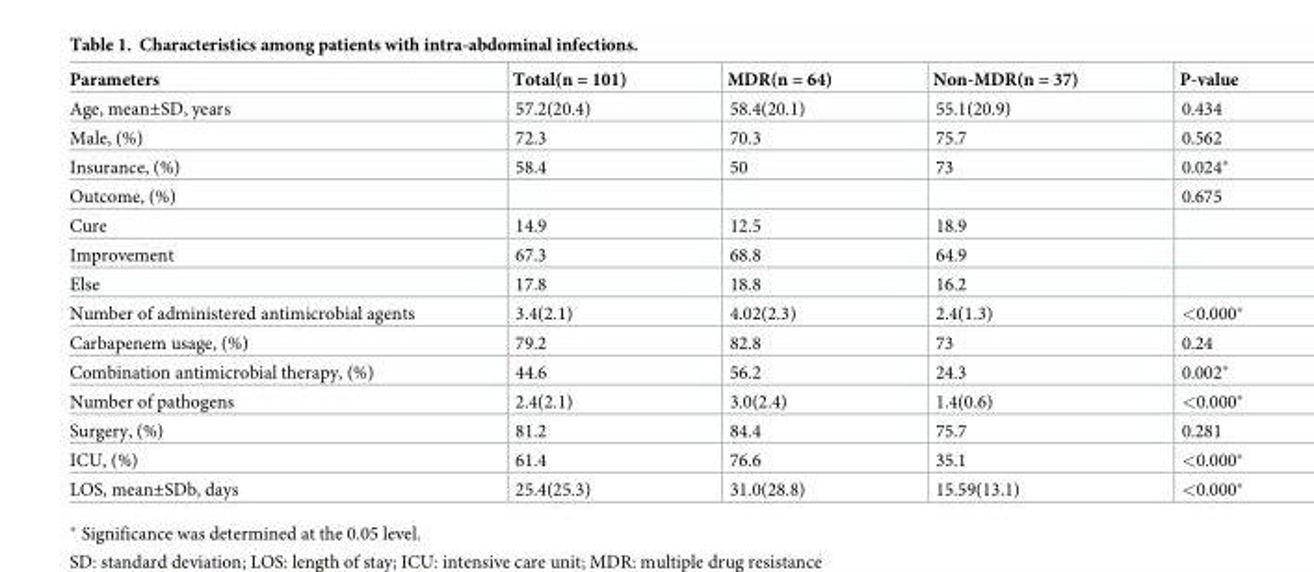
<table><thead><tr><td>Parameters</td><td>Total(n = 101)</td><td>MDR(n = 64)</td><td>Non-MDR(n = 37)</td><td>P-value</td></tr></thead><tbody><tr><td>Age, mean±SD, years</td><td>57.2(20.4)</td><td>58.4(20.1)</td><td>55.1(20.9)</td><td>0.434</td></tr><tr><td>Male, (%)</td><td>72.3</td><td>70.3</td><td>75.7</td><td>0.562</td></tr><tr><td>Insurance, (%)</td><td>58.4</td><td>50</td><td>73</td><td>0.024*</td></tr><tr><td>Outcome, (%)</td><td></td><td></td><td></td><td>0.675</td></tr><tr><td>Cure</td><td>14.9</td><td>12.5</td><td>18.9</td><td></td></tr><tr><td>Improvement</td><td>67.3</td><td>68.8</td><td>64.9</td><td></td></tr><tr><td>Else</td><td>17.8</td><td>18.8</td><td>16.2</td><td></td></tr><tr><td>Number of administered antimicrobial agents</td><td>3.4(2.1)</td><td>4.02(2.3)</td><td>2.4(1.3)</td><td>&lt;0.000*</td></tr><tr><td>Carbapenem usage, (%)</td><td>79.2</td><td>82.8</td><td>73</td><td>0.24</td></tr><tr><td>Combination antimicrobial therapy, (%)</td><td>44.6</td><td>56.2</td><td>24.3</td><td>0.002*</td></tr><tr><td>Number of pathogens</td><td>2.4(2.1)</td><td>3.0(2.4)</td><td>1.4(0.6)</td><td>&lt;0.000*</td></tr><tr><td>Surgery, (%)</td><td>81.2</td><td>84.4</td><td>75.7</td><td>0.281</td></tr><tr><td>ICU, (%)</td><td>61.4</td><td>76.6</td><td>35.1</td><td>&lt;0.000*</td></tr><tr><td>LOS, mean±SDb, days</td><td>25.4(25.3)</td><td>31.0(28.8)</td><td>15.59(13.1)</td><td>&lt;0.000*</td></tr></tbody></table>